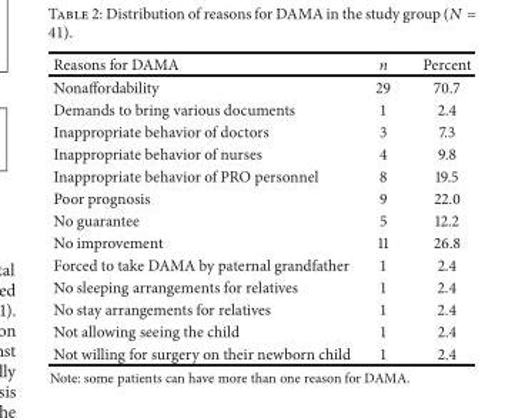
<table><thead><tr><td>Reasons for DAMA</td><td>n</td><td>Percent</td></tr></thead><tbody><tr><td>Nonaffordability</td><td>29</td><td>70.7</td></tr><tr><td>Demands to bring various documents</td><td>1</td><td>2.4</td></tr><tr><td>Inappropriate behavior of doctors</td><td>3</td><td>7.3</td></tr><tr><td>Inappropriate behavior of nurses</td><td>4</td><td>9.8</td></tr><tr><td>Inappropriate behavior of PRO personnel</td><td>8</td><td>19.5</td></tr><tr><td>Poor prognosis</td><td>9</td><td>22.0</td></tr><tr><td>No guarantee</td><td>5</td><td>12.2</td></tr><tr><td>No improvement</td><td>11</td><td>26.8</td></tr><tr><td>Forced to take DAMA by paternal grandfather</td><td>1</td><td>2.4</td></tr><tr><td>No sleeping arrangements for relatives</td><td>1</td><td>2.4</td></tr><tr><td>No stay arrangements for relatives</td><td>1</td><td>2.4</td></tr><tr><td>Not allowing seeing the child</td><td>1</td><td>2.4</td></tr><tr><td>Not willing for surgery on their newborn child</td><td>1</td><td>2.4</td></tr></tbody></table>